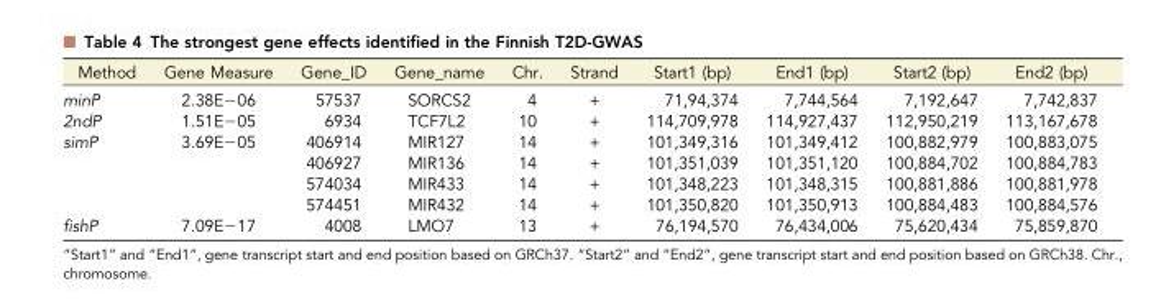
<table><thead><tr><td>Method</td><td>Gene Measure</td><td>Gene_ID</td><td>Gene_name</td><td>Chr.</td><td>Strand</td><td>Start1 (bp)</td><td>End1 (bp)</td><td>Start2 (bp)</td><td>End2 (bp)</td></tr></thead><tbody><tr><td>minP</td><td>2.38E−06</td><td>57537</td><td>SORCS2</td><td>4</td><td>+</td><td>71,94,374</td><td>7,744,564</td><td>7,192,647</td><td>7,742,837</td></tr><tr><td>2ndP</td><td>1.51E−05</td><td>6934</td><td>TCF7L2</td><td>10</td><td>+</td><td>114,709,978</td><td>114,927,437</td><td>112,950,219</td><td>113,167,678</td></tr><tr><td rowspan="4">simP</td><td>3.69E−05</td><td>406914</td><td>MIR127</td><td>14</td><td>+</td><td>101,349,316</td><td>101,349,412</td><td>100,882,979</td><td>100,883,075</td></tr><tr><td></td><td>406927</td><td>MIR136</td><td>14</td><td>+</td><td>101,351,039</td><td>101,351,120</td><td>100,884,702</td><td>100,884,783</td></tr><tr><td></td><td>574034</td><td>MIR433</td><td>14</td><td>+</td><td>101,348,223</td><td>101,348,315</td><td>100,881,886</td><td>100,881,978</td></tr><tr><td></td><td>574451</td><td>MIR432</td><td>14</td><td>+</td><td>101,350,820</td><td>101,350,913</td><td>100,884,483</td><td>100,884,576</td></tr><tr><td>fishP</td><td>7.09E−17</td><td>4008</td><td>LMO7</td><td>13</td><td>+</td><td>76,194,570</td><td>76,434,006</td><td>75,620,434</td><td>75,859,870</td></tr></tbody></table>